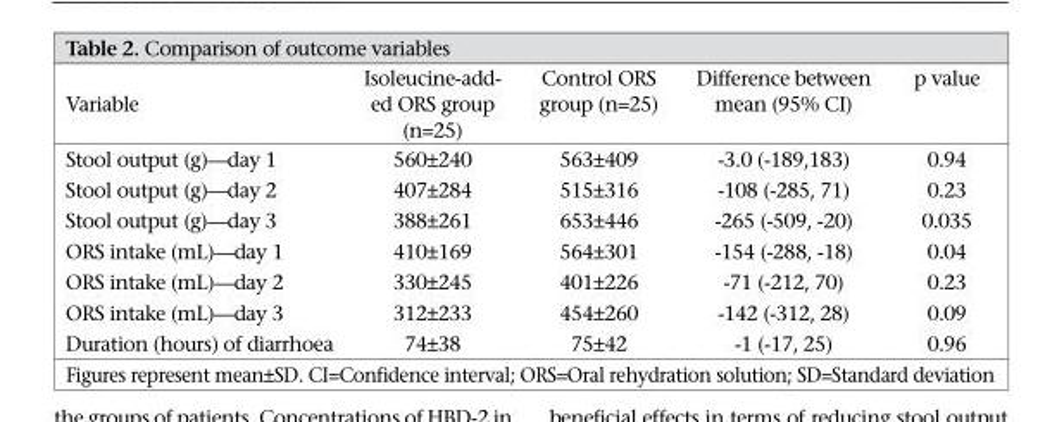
<table><thead><tr><td>Variable</td><td>Isoleucine-add- ed ORS group (n=25)</td><td>Control ORS group (n=25)</td><td>Difference between mean (95% CI)</td><td>p value</td></tr></thead><tbody><tr><td>Stool output (g)—day 1</td><td>560±240</td><td>563±409</td><td>-3.0 (-189,183)</td><td>0.94</td></tr><tr><td>Stool output (g)—day 2</td><td>407±284</td><td>515±316</td><td>-108 (-285, 71)</td><td>0.23</td></tr><tr><td>Stool output (g)—day 3</td><td>388±261</td><td>653±446</td><td>-265 (-509, -20)</td><td>0.035</td></tr><tr><td>ORS intake (mL)—day 1</td><td>410±169</td><td>564±301</td><td>-154 (-288, -18)</td><td>0.04</td></tr><tr><td>ORS intake (mL)—day 2</td><td>330±245</td><td>401±226</td><td>-71 (-212, 70)</td><td>0.23</td></tr><tr><td>ORS intake (mL)—day 3</td><td>312±233</td><td>454±260</td><td>-142 (-312, 28)</td><td>0.09</td></tr><tr><td>Duration (hours) of diarrhoea</td><td>74±38</td><td>75±42</td><td>-1 (-17, 25)</td><td>0.96</td></tr></tbody></table>